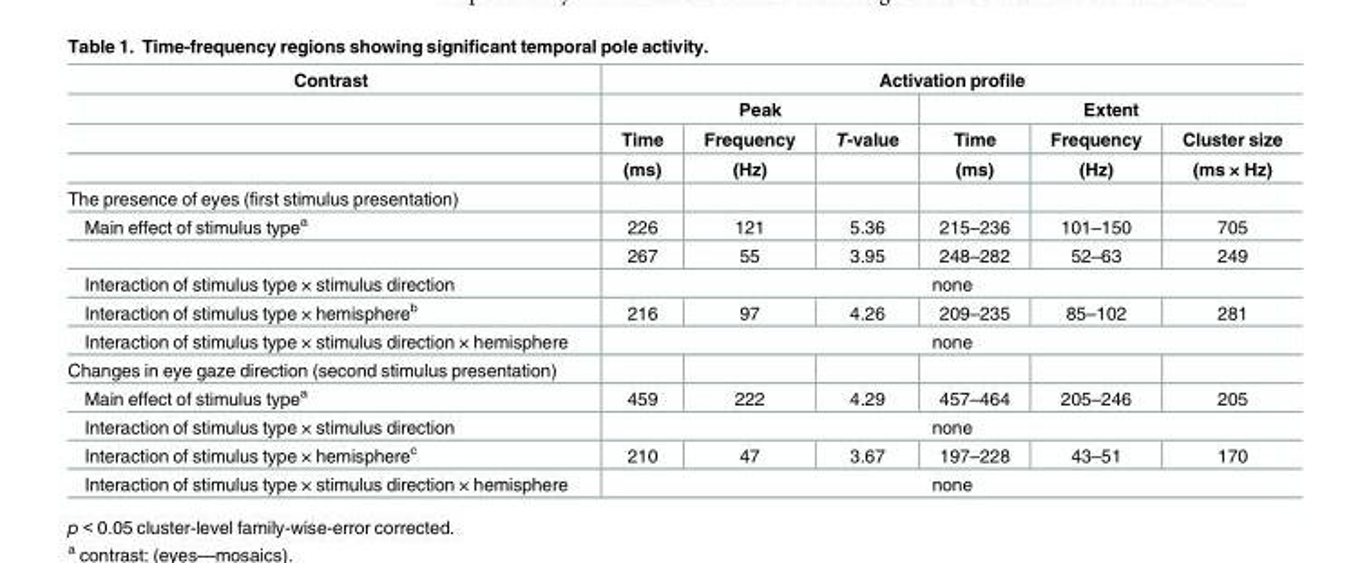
<table><thead><tr><td rowspan="4">Contrast</td><td colspan="6">Activation profile</td></tr><tr><td colspan="3">Peak</td><td colspan="3">Extent</td></tr><tr><td rowspan="2">Time (ms)</td><td rowspan="2">Frequency (Hz)</td><td rowspan="2">T-value</td><td rowspan="2">Time (ms)</td><td rowspan="2">Frequency (Hz)</td><td rowspan="2">Cluster size (ms × Hz)</td></tr><tr></tr></thead><tbody><tr><td colspan="7">The presence of eyes (first stimulus presentation)</td></tr><tr><td rowspan="2">Main effect of stimulus type<sup>a</sup></td><td>226</td><td>121</td><td>5.36</td><td>215–236</td><td>101–150</td><td>705</td></tr><tr><td>267</td><td>55</td><td>3.95</td><td>248–282</td><td>52–63</td><td>249</td></tr><tr><td>Interaction of stimulus type × stimulus direction</td><td colspan="6">none</td></tr><tr><td>Interaction of stimulus type × hemisphere<sup>b</sup></td><td>216</td><td>97</td><td>4.26</td><td>209–235</td><td>85–102</td><td>281</td></tr><tr><td>Interaction of stimulus type × stimulus direction × hemisphere</td><td colspan="6">none</td></tr><tr><td colspan="7">Changes in eye gaze direction (second stimulus presentation)</td></tr><tr><td>Main effect of stimulus type<sup>a</sup></td><td>459</td><td>222</td><td>4.29</td><td>457–464</td><td>205–246</td><td>205</td></tr><tr><td>Interaction of stimulus type × stimulus direction</td><td colspan="6">none</td></tr><tr><td>Interaction of stimulus type × hemisphere<sup>c</sup></td><td>210</td><td>47</td><td>3.67</td><td>197–228</td><td>43–51</td><td>170</td></tr><tr><td>Interaction of stimulus type × stimulus direction × hemisphere</td><td colspan="6">none</td></tr></tbody></table>